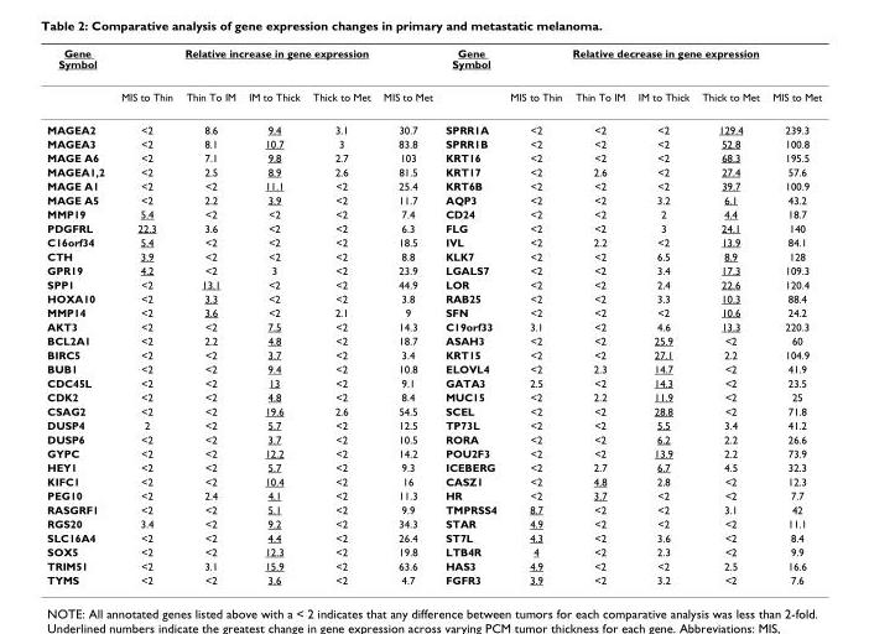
<table><thead><tr><td rowspan="2">Gene Symbol</td><td colspan="5">Relative increase in gene expression</td><td rowspan="2">Gene Symbol</td><td colspan="5">Relative decrease in gene expression</td></tr><tr><td>MIS to Thin</td><td>Thin To IM</td><td>IM to Thick</td><td>Thick to Met</td><td>MIS to Met</td><td>MIS to Thin</td><td>Thin To IM</td><td>IM to Thick</td><td>Thick to Met</td><td>MIS to Met</td></tr></thead><tbody><tr><td>MAGEA2</td><td>&lt;2</td><td>8.6</td><td>9.4</td><td>3.1</td><td>30.7</td><td>SPRR1A</td><td>&lt;2</td><td>&lt;2</td><td>&lt;2</td><td>129.4</td><td>239.3</td></tr><tr><td>MAGEA3</td><td>&lt;2</td><td>8.1</td><td>10.7</td><td>3</td><td>83.8</td><td>SPRR1B</td><td>&lt;2</td><td>&lt;2</td><td>&lt;2</td><td>52.8</td><td>100.8</td></tr><tr><td>MAGE A6</td><td>&lt;2</td><td>7.1</td><td>9.8</td><td>2.7</td><td>103</td><td>KRT16</td><td>&lt;2</td><td>&lt;2</td><td>&lt;2</td><td>68.3</td><td>195.5</td></tr><tr><td>MAGEA1,2</td><td>&lt;2</td><td>2.5</td><td>8.9</td><td>2.6</td><td>81.5</td><td>KRT17</td><td>&lt;2</td><td>2.6</td><td>&lt;2</td><td>27.4</td><td>57.6</td></tr><tr><td>MAGE A1</td><td>&lt;2</td><td>&lt;2</td><td>11.1</td><td>&lt;2</td><td>25.4</td><td>KRT6B</td><td>&lt;2</td><td>&lt;2</td><td>&lt;2</td><td>39.7</td><td>100.9</td></tr><tr><td>MAGE A5</td><td>&lt;2</td><td>2.2</td><td>3.9</td><td>&lt;2</td><td>11.7</td><td>AQP3</td><td>&lt;2</td><td>&lt;2</td><td>3.2</td><td>6.1</td><td>43.2</td></tr><tr><td>MMP19</td><td>5.4</td><td>&lt;2</td><td>&lt;2</td><td>&lt;2</td><td>7.4</td><td>CD24</td><td>&lt;2</td><td>&lt;2</td><td>2</td><td>4.4</td><td>18.7</td></tr><tr><td>PDGFRL</td><td>22.3</td><td>3.6</td><td>&lt;2</td><td>&lt;2</td><td>6.3</td><td>FLG</td><td>&lt;2</td><td>&lt;2</td><td>3</td><td>24.1</td><td>140</td></tr><tr><td>C16orf34</td><td>5.4</td><td>&lt;2</td><td>&lt;2</td><td>&lt;2</td><td>18.5</td><td>IVL</td><td>&lt;2</td><td>2.2</td><td>&lt;2</td><td>13.9</td><td>84.1</td></tr><tr><td>CTH</td><td>3.9</td><td>&lt;2</td><td>&lt;2</td><td>&lt;2</td><td>8.8</td><td>KLK7</td><td>&lt;2</td><td>&lt;2</td><td>6.5</td><td>8.9</td><td>128</td></tr><tr><td>GPR19</td><td>4.2</td><td>&lt;2</td><td>3</td><td>&lt;2</td><td>23.9</td><td>LGALS7</td><td>&lt;2</td><td>&lt;2</td><td>3.4</td><td>17.3</td><td>109.3</td></tr><tr><td>SPP1</td><td>&lt;2</td><td>13.1</td><td>&lt;2</td><td>&lt;2</td><td>44.9</td><td>LOR</td><td>&lt;2</td><td>&lt;2</td><td>2.4</td><td>22.6</td><td>120.4</td></tr><tr><td>HOXA10</td><td>&lt;2</td><td>3.3</td><td>&lt;2</td><td>&lt;2</td><td>3.8</td><td>RAB25</td><td>&lt;2</td><td>&lt;2</td><td>3.3</td><td>10.3</td><td>88.4</td></tr><tr><td>MMP14</td><td>&lt;2</td><td>3.6</td><td>&lt;2</td><td>2.1</td><td>9</td><td>SFN</td><td>&lt;2</td><td>&lt;2</td><td>&lt;2</td><td>10.6</td><td>24.2</td></tr><tr><td>AKT3</td><td>&lt;2</td><td>&lt;2</td><td>7.5</td><td>&lt;2</td><td>14.3</td><td>C19orf33</td><td>3.1</td><td>&lt;2</td><td>4.6</td><td>13.3</td><td>220.3</td></tr><tr><td>BCL2A1</td><td>&lt;2</td><td>2.2</td><td>4.8</td><td>&lt;2</td><td>18.7</td><td>ASAH3</td><td>&lt;2</td><td>&lt;2</td><td>25.9</td><td>&lt;2</td><td>60</td></tr><tr><td>BIRC5</td><td>&lt;2</td><td>&lt;2</td><td>3.7</td><td>&lt;2</td><td>3.4</td><td>KRT15</td><td>&lt;2</td><td>&lt;2</td><td>27.1</td><td>2.2</td><td>104.9</td></tr><tr><td>BUB1</td><td>&lt;2</td><td>&lt;2</td><td>9.4</td><td>&lt;2</td><td>10.8</td><td>ELOVL4</td><td>&lt;2</td><td>2.3</td><td>14.7</td><td>&lt;2</td><td>41.9</td></tr><tr><td>CDC45L</td><td>&lt;2</td><td>&lt;2</td><td>13</td><td>&lt;2</td><td>9.1</td><td>GATA3</td><td>2.5</td><td>&lt;2</td><td>14.3</td><td>&lt;2</td><td>23.5</td></tr><tr><td>CDK2</td><td>&lt;2</td><td>&lt;2</td><td>4.8</td><td>&lt;2</td><td>8.4</td><td>MUC15</td><td>&lt;2</td><td>2.2</td><td>11.9</td><td>&lt;2</td><td>25</td></tr><tr><td>CSAG2</td><td>&lt;2</td><td>&lt;2</td><td>19.6</td><td>2.6</td><td>54.5</td><td>SCEL</td><td>&lt;2</td><td>&lt;2</td><td>28.8</td><td>&lt;2</td><td>71.8</td></tr><tr><td>DUSP4</td><td>2</td><td>&lt;2</td><td>5.7</td><td>&lt;2</td><td>12.5</td><td>TP73L</td><td>&lt;2</td><td>&lt;2</td><td>5.5</td><td>3.4</td><td>41.2</td></tr><tr><td>DUSP6</td><td>&lt;2</td><td>&lt;2</td><td>3.7</td><td>&lt;2</td><td>10.5</td><td>RORA</td><td>&lt;2</td><td>&lt;2</td><td>6.2</td><td>2.2</td><td>26.6</td></tr><tr><td>GYPC</td><td>&lt;2</td><td>&lt;2</td><td>12.2</td><td>&lt;2</td><td>14.2</td><td>POU2F3</td><td>&lt;2</td><td>&lt;2</td><td>13.9</td><td>2.2</td><td>73.9</td></tr><tr><td>HEY1</td><td>&lt;2</td><td>&lt;2</td><td>5.7</td><td>&lt;2</td><td>9.3</td><td>ICEBERG</td><td>&lt;2</td><td>2.7</td><td>6.7</td><td>4.5</td><td>32.3</td></tr><tr><td>KIFC1</td><td>&lt;2</td><td>&lt;2</td><td>10.4</td><td>&lt;2</td><td>16</td><td>CASZ1</td><td>&lt;2</td><td>4.8</td><td>2.8</td><td>&lt;2</td><td>12.3</td></tr><tr><td>PEG10</td><td>&lt;2</td><td>2.4</td><td>4.1</td><td>&lt;2</td><td>11.3</td><td>HR</td><td>&lt;2</td><td>3.7</td><td>&lt;2</td><td>&lt;2</td><td>7.7</td></tr><tr><td>RASGRF1</td><td>&lt;2</td><td>&lt;2</td><td>5.1</td><td>&lt;2</td><td>9.9</td><td>TMPRSS4</td><td>8.7</td><td>&lt;2</td><td>&lt;2</td><td>3.1</td><td>42</td></tr><tr><td>RGS20</td><td>3.4</td><td>&lt;2</td><td>9.2</td><td>&lt;2</td><td>34.3</td><td>STAR</td><td>4.9</td><td>&lt;2</td><td>&lt;2</td><td>&lt;2</td><td>11.1</td></tr><tr><td>SLC16A4</td><td>&lt;2</td><td>&lt;2</td><td>4.4</td><td>&lt;2</td><td>26.4</td><td>ST7L</td><td>4.3</td><td>&lt;2</td><td>3.6</td><td>&lt;2</td><td>8.4</td></tr><tr><td>SOX5</td><td>&lt;2</td><td>&lt;2</td><td>12.3</td><td>&lt;2</td><td>19.8</td><td>LTB4R</td><td>4</td><td>&lt;2</td><td>2.3</td><td>&lt;2</td><td>9.9</td></tr><tr><td>TRIM51</td><td>&lt;2</td><td>3.1</td><td>15.9</td><td>&lt;2</td><td>63.6</td><td>HAS3</td><td>4.9</td><td>&lt;2</td><td>&lt;2</td><td>2.5</td><td>16.6</td></tr><tr><td>TYMS</td><td>&lt;2</td><td>&lt;2</td><td>3.6</td><td>&lt;2</td><td>4.7</td><td>FGFR3</td><td>3.9</td><td>&lt;2</td><td>3.2</td><td>&lt;2</td><td>7.6</td></tr></tbody></table>